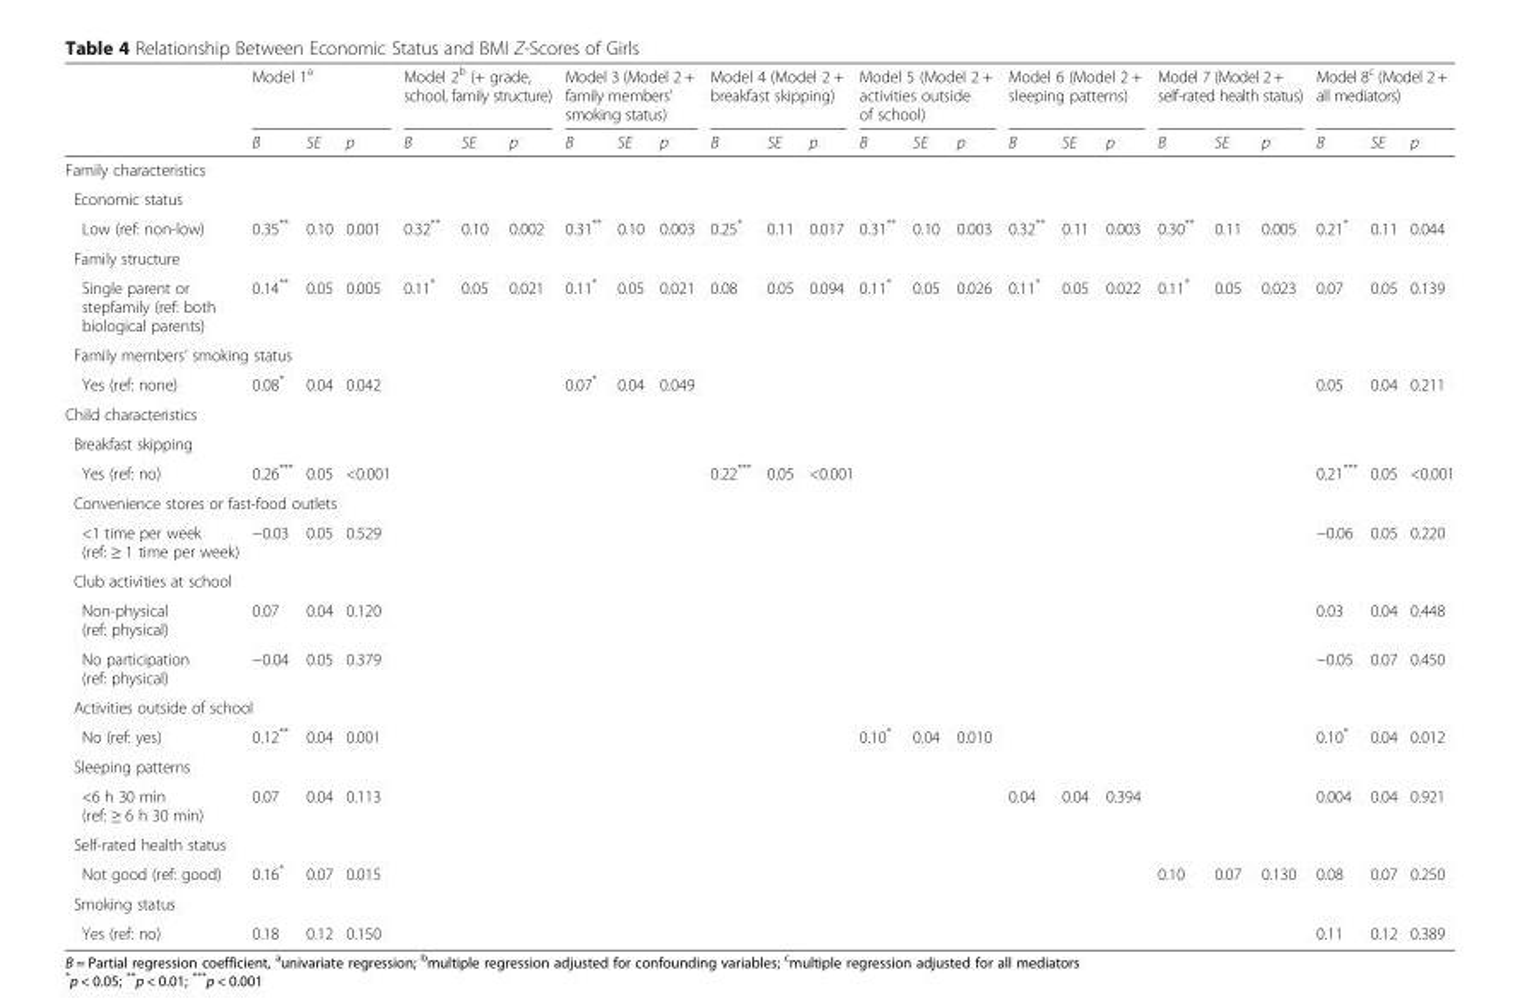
<table><thead><tr><td rowspan="2"></td><td colspan="3">Model 1<sup>a</sup></td><td colspan="3">Model 2<sup>b</sup> (+ grade, school, family structure)</td><td colspan="3">Model 3 (Model 2 + family members’ smoking status)</td><td colspan="3">Model 4 (Model 2 + breakfast skipping)</td><td colspan="3">Model 5 (Model 2 + activities outside of school)</td><td colspan="3">Model 6 (Model 2 + sleeping patterns)</td><td colspan="3">Model 7 (Model 2 + self-rated health status)</td><td colspan="3">Model 8<sup>c</sup> (Model 2 + all mediators)</td></tr><tr><td>B</td><td>SE</td><td>p</td><td>B</td><td>SE</td><td>p</td><td>B</td><td>SE</td><td>p</td><td>B</td><td>SE</td><td>p</td><td>B</td><td>SE</td><td>p</td><td>B</td><td>SE</td><td>p</td><td>B</td><td>SE</td><td>p</td><td>B</td><td>SE</td><td>p</td></tr></thead><tbody><tr><td colspan="25">Family characteristics</td></tr><tr><td colspan="25">Economic status</td></tr><tr><td>Low (ref: non-low)</td><td>0.35**</td><td>0.10</td><td>0.001</td><td>0.32**</td><td>0.10</td><td>0.002</td><td>0.31**</td><td>0.10</td><td>0.003</td><td>0.25*</td><td>0.11</td><td>0.017</td><td>0.31**</td><td>0.10</td><td>0.003</td><td>0.32**</td><td>0.11</td><td>0.003</td><td>0.30**</td><td>0.11</td><td>0.005</td><td>0.21*</td><td>0.11</td><td>0.044</td></tr><tr><td colspan="25">Family structure</td></tr><tr><td>Single parent or stepfamily (ref: both biological parents)</td><td>0.14**</td><td>0.05</td><td>0.005</td><td>0.11*</td><td>0.05</td><td>0.021</td><td>0.11*</td><td>0.05</td><td>0.021</td><td>0.08</td><td>0.05</td><td>0.094</td><td>0.11*</td><td>0.05</td><td>0.026</td><td>0.11*</td><td>0.05</td><td>0.022</td><td>0.11*</td><td>0.05</td><td>0.023</td><td>0.07</td><td>0.05</td><td>0.139</td></tr><tr><td colspan="25">Family members’ smoking status</td></tr><tr><td>Yes (ref: none)</td><td>0.08*</td><td>0.04</td><td>0.042</td><td></td><td></td><td></td><td>0.07*</td><td>0.04</td><td>0.049</td><td></td><td></td><td></td><td></td><td></td><td></td><td></td><td></td><td></td><td></td><td></td><td></td><td>0.05</td><td>0.04</td><td>0.211</td></tr><tr><td colspan="25">Child characteristics</td></tr><tr><td colspan="25">Breakfast skipping</td></tr><tr><td>Yes (ref: no)</td><td>0.26***</td><td>0.05</td><td>&lt;0.001</td><td></td><td></td><td></td><td></td><td></td><td></td><td>0.22***</td><td>0.05</td><td colspan="2">&lt;0.001</td><td></td><td></td><td></td><td></td><td></td><td></td><td></td><td></td><td>0.21***</td><td>0.05</td><td>&lt;0.001</td></tr><tr><td colspan="25">Convenience stores or fast-food outlets</td></tr><tr><td>&lt;1 time per week (ref: ≥ 1 time per week)</td><td>−0.03</td><td>0.05</td><td>0.529</td><td></td><td></td><td></td><td></td><td></td><td></td><td></td><td></td><td></td><td></td><td></td><td></td><td></td><td></td><td></td><td></td><td></td><td></td><td>−0.06</td><td>0.05</td><td>0.220</td></tr><tr><td colspan="25">Club activities at school</td></tr><tr><td>Non-physical (ref: physical)</td><td>0.07</td><td>0.04</td><td>0.120</td><td></td><td></td><td></td><td></td><td></td><td></td><td></td><td></td><td></td><td></td><td></td><td></td><td></td><td></td><td></td><td></td><td></td><td></td><td>0.03</td><td>0.04</td><td>0.448</td></tr><tr><td>No participation (ref: physical)</td><td>−0.04</td><td>0.05</td><td>0.379</td><td></td><td></td><td></td><td></td><td></td><td></td><td></td><td></td><td></td><td></td><td></td><td></td><td></td><td></td><td></td><td></td><td></td><td></td><td>−0.05</td><td>0.07</td><td>0.450</td></tr><tr><td colspan="25">Activities outside of school</td></tr><tr><td>No (ref: yes)</td><td>0.12**</td><td>0.04</td><td>0.001</td><td></td><td></td><td></td><td></td><td></td><td></td><td></td><td></td><td></td><td>0.10*</td><td>0.04</td><td>0.010</td><td></td><td></td><td></td><td></td><td></td><td></td><td>0.10*</td><td>0.04</td><td>0.012</td></tr><tr><td colspan="25">Sleeping patterns</td></tr><tr><td>&lt;6 h 30 min (ref: ≥ 6 h 30 min)</td><td>0.07</td><td>0.04</td><td>0.113</td><td></td><td></td><td></td><td></td><td></td><td></td><td></td><td></td><td></td><td></td><td></td><td></td><td>0.04</td><td>0.04</td><td>0.394</td><td></td><td></td><td></td><td>0.004</td><td>0.04</td><td>0.921</td></tr><tr><td colspan="25">Self-rated health status</td></tr><tr><td>Not good (ref: good)</td><td>0.16*</td><td>0.07</td><td>0.015</td><td></td><td></td><td></td><td></td><td></td><td></td><td></td><td></td><td></td><td></td><td></td><td></td><td></td><td></td><td></td><td>0.10</td><td>0.07</td><td>0.130</td><td>0.08</td><td>0.07</td><td>0.250</td></tr><tr><td colspan="25">Smoking status</td></tr><tr><td>Yes (ref: no)</td><td>0.18</td><td>0.12</td><td>0.150</td><td></td><td></td><td></td><td></td><td></td><td></td><td></td><td></td><td></td><td></td><td></td><td></td><td></td><td></td><td></td><td></td><td></td><td></td><td>0.11</td><td>0.12</td><td>0.389</td></tr></tbody></table>